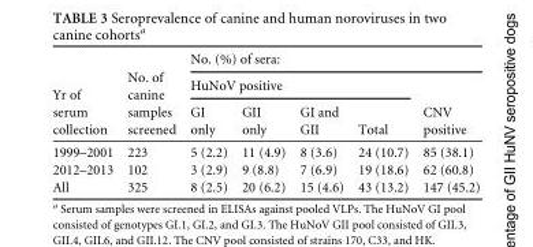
<table><thead><tr><td rowspan="3">Yr of serum collection</td><td rowspan="3">No. of canine samples screened</td><td colspan="5">No. (%) of sera:</td></tr><tr><td colspan="4">HuNoV positive</td><td rowspan="2">CNV positive</td></tr><tr><td>GI only</td><td>GII only</td><td>GI and GII</td><td>Total</td></tr></thead><tbody><tr><td>1999–2001</td><td>223</td><td>5 (2.2)</td><td>11 (4.9)</td><td>8 (3.6)</td><td>24 (10.7)</td><td>85 (38.1)</td></tr><tr><td>2012–2013</td><td>102</td><td>3 (2.9)</td><td>9 (8.8)</td><td>7 (6.9)</td><td>19 (18.6)</td><td>62 (60.8)</td></tr><tr><td>All</td><td>325</td><td>8 (2.5)</td><td>20 (6.2)</td><td>15 (4.6)</td><td>43 (13.2)</td><td>147 (45.2)</td></tr></tbody></table>